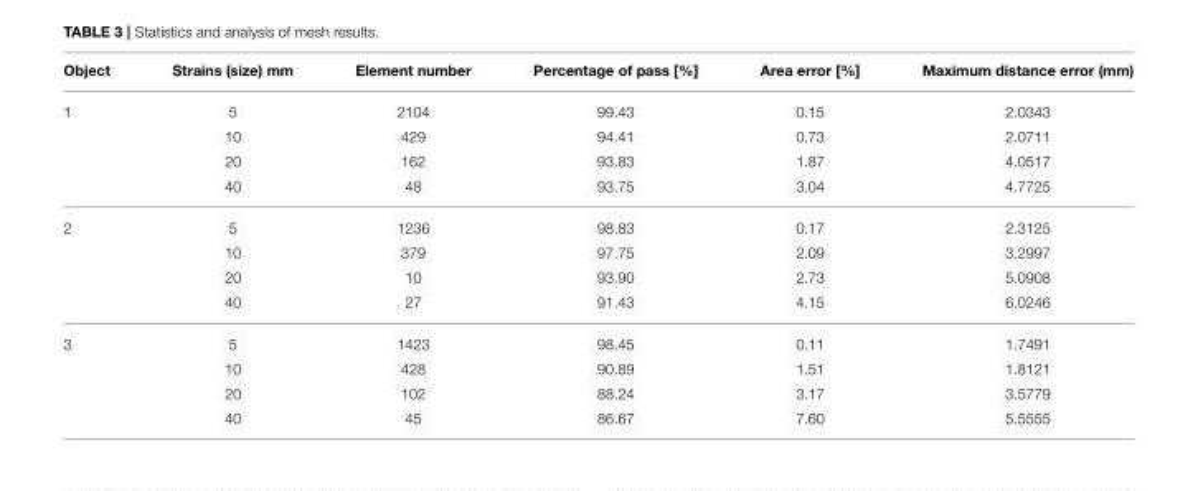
<table><thead><tr><td>Object</td><td>Strains (size) mm</td><td>Element number</td><td>Percentage of pass [%]</td><td>Area error [%]</td><td>Maximum distance error (mm)</td></tr></thead><tbody><tr><td rowspan="4">1</td><td>5</td><td>2104</td><td>99.43</td><td>0.15</td><td>2.0343</td></tr><tr><td>10</td><td>429</td><td>94.41</td><td>0.73</td><td>2.0711</td></tr><tr><td>20</td><td>162</td><td>93.83</td><td>1.87</td><td>4.0517</td></tr><tr><td>40</td><td>48</td><td>93.75</td><td>3.04</td><td>4.7725</td></tr><tr><td rowspan="4">2</td><td>5</td><td>1236</td><td>98.83</td><td>0.17</td><td>2.3125</td></tr><tr><td>10</td><td>379</td><td>97.75</td><td>2.09</td><td>3.2997</td></tr><tr><td>20</td><td>10</td><td>93.90</td><td>2.73</td><td>5.0908</td></tr><tr><td>40</td><td>27</td><td>91.43</td><td>4.15</td><td>6.0246</td></tr><tr><td rowspan="4">3</td><td>5</td><td>1423</td><td>98.45</td><td>0.11</td><td>1.7491</td></tr><tr><td>10</td><td>428</td><td>90.89</td><td>1.51</td><td>1.8121</td></tr><tr><td>20</td><td>102</td><td>88.24</td><td>3.17</td><td>3.5779</td></tr><tr><td>40</td><td>45</td><td>86.67</td><td>7.60</td><td>5.5555</td></tr></tbody></table>